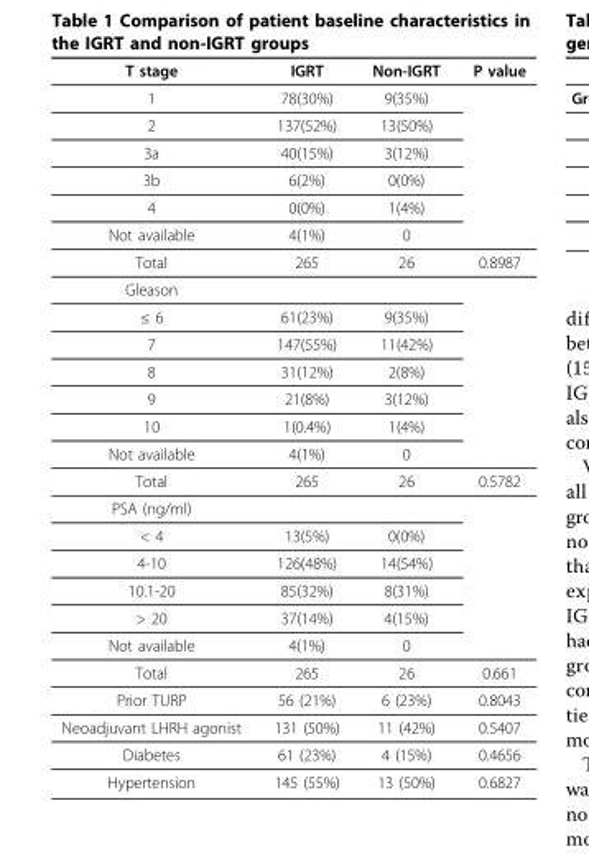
<table><thead><tr><td>T stage</td><td>IGRT</td><td>Non-IGRT</td><td>P value</td></tr></thead><tbody><tr><td>1</td><td>78(30%)</td><td>9(35%)</td><td></td></tr><tr><td>2</td><td>137(52%)</td><td>13(50%)</td><td></td></tr><tr><td>3a</td><td>40(15%)</td><td>3(12%)</td><td></td></tr><tr><td>3b</td><td>6(2%)</td><td>0(0%)</td><td></td></tr><tr><td>4</td><td>0(0%)</td><td>1(4%)</td><td></td></tr><tr><td>Not available</td><td>4(1%)</td><td>0</td><td></td></tr><tr><td>Total</td><td>265</td><td>26</td><td>0.8987</td></tr><tr><td colspan="4">Gleason</td></tr><tr><td>≤ 6</td><td>61(23%)</td><td>9(35%)</td><td></td></tr><tr><td>7</td><td>147(55%)</td><td>11(42%)</td><td></td></tr><tr><td>8</td><td>31(12%)</td><td>2(8%)</td><td></td></tr><tr><td>9</td><td>21(8%)</td><td>3(12%)</td><td></td></tr><tr><td>10</td><td>1(0.4%)</td><td>1(4%)</td><td></td></tr><tr><td>Not available</td><td>4(1%)</td><td>0</td><td></td></tr><tr><td>Total</td><td>265</td><td>26</td><td>0.5782</td></tr><tr><td colspan="4">PSA (ng/ml)</td></tr><tr><td>&lt; 4</td><td>13(5%)</td><td>0(0%)</td><td></td></tr><tr><td>4-10</td><td>126(48%)</td><td>14(54%)</td><td></td></tr><tr><td>10.1-20</td><td>85(32%)</td><td>8(31%)</td><td></td></tr><tr><td>&gt; 20</td><td>37(14%)</td><td>4(15%)</td><td></td></tr><tr><td>Not available</td><td>4(1%)</td><td>0</td><td></td></tr><tr><td>Total</td><td>265</td><td>26</td><td>0.661</td></tr><tr><td>Prior TURP</td><td>56 (21%)</td><td>6 (23%)</td><td>0.8043</td></tr><tr><td>Neoadjuvant LHRH agonist</td><td>131 (50%)</td><td>11 (42%)</td><td>0.5407</td></tr><tr><td>Diabetes</td><td>61 (23%)</td><td>4 (15%)</td><td>0.4656</td></tr><tr><td>Hypertension</td><td>145 (55%)</td><td>13 (50%)</td><td>0.6827</td></tr></tbody></table>